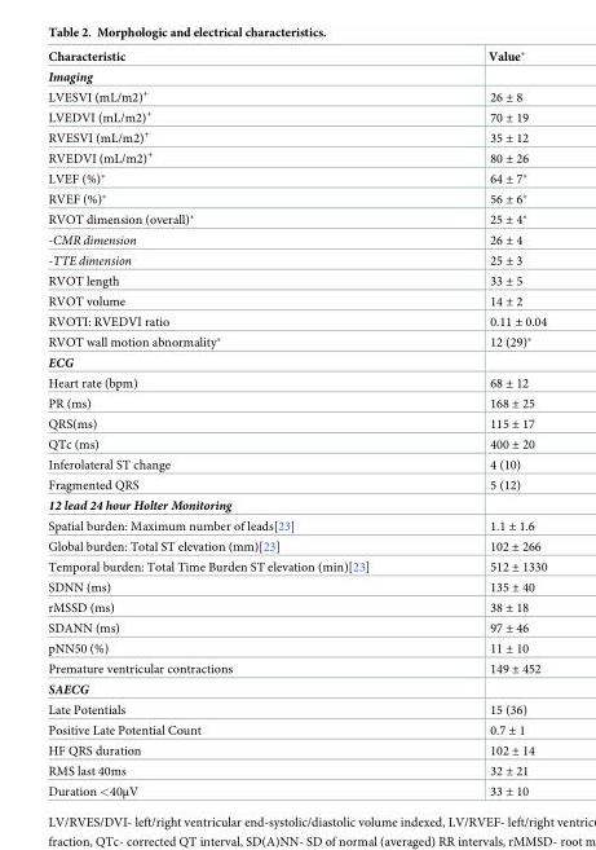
<table><thead><tr><td>Characteristic</td><td>Value*</td></tr></thead><tbody><tr><td colspan="2">Imaging</td></tr><tr><td>LVESVI (mL/m2)<sup>+</sup></td><td>26 ± 8</td></tr><tr><td>LVEDVI (mL/m2)<sup>+</sup></td><td>70 ± 19</td></tr><tr><td>RVESVI (mL/m2)<sup>+</sup></td><td>35 ± 12</td></tr><tr><td>RVEDVI (mL/m2)<sup>+</sup></td><td>80 ± 26</td></tr><tr><td>LVEF (%)*</td><td>64 ± 7*</td></tr><tr><td>RVEF (%)*</td><td>56 ± 6*</td></tr><tr><td>RVOT dimension (overall)*</td><td>25 ± 4*</td></tr><tr><td>-CMR dimension</td><td>26 ± 4</td></tr><tr><td>-TTE dimension</td><td>25 ± 3</td></tr><tr><td>RVOT length</td><td>33 ± 5</td></tr><tr><td>RVOT volume</td><td>14 ± 2</td></tr><tr><td>RVOTI: RVEDVI ratio</td><td>0.11 ± 0.04</td></tr><tr><td>RVOT wall motion abnormality*</td><td>12 (29)*</td></tr><tr><td colspan="2">ECG</td></tr><tr><td>Heart rate (bpm)</td><td>68 ± 12</td></tr><tr><td>PR (ms)</td><td>168 ± 25</td></tr><tr><td>QRS(ms)</td><td>115 ± 17</td></tr><tr><td>QTc (ms)</td><td>400 ± 20</td></tr><tr><td>Inferolateral ST change</td><td>4 (10)</td></tr><tr><td>Fragmented QRS</td><td>5 (12)</td></tr><tr><td colspan="2">12 lead 24 hour Holter Monitoring</td></tr><tr><td>Spatial burden: Maximum number of leads[23]</td><td>1.1 ± 1.6</td></tr><tr><td>Global burden: Total ST elevation (mm)[23]</td><td>102 ± 266</td></tr><tr><td>Temporal burden: Total Time Burden ST elevation (min)[23]</td><td>512 ± 1330</td></tr><tr><td>SDNN (ms)</td><td>135 ± 40</td></tr><tr><td>rMSSD (ms)</td><td>38 ± 18</td></tr><tr><td>SDANN (ms)</td><td>97 ± 46</td></tr><tr><td>pNN50 (%)</td><td>11 ± 10</td></tr><tr><td>Premature ventricular contractions</td><td>149 ± 452</td></tr><tr><td colspan="2">SAECG</td></tr><tr><td>Late Potentials</td><td>15 (36)</td></tr><tr><td>Positive Late Potential Count</td><td>0.7 ± 1</td></tr><tr><td>HF QRS duration</td><td>102 ± 14</td></tr><tr><td>RMS last 40ms</td><td>32 ± 21</td></tr><tr><td>Duration &lt;40μV</td><td>33 ± 10</td></tr></tbody></table>